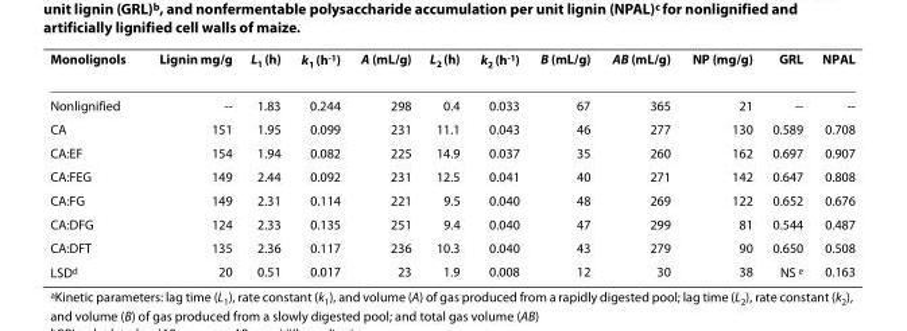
<table><thead><tr><td>Monolignols</td><td>Lignin mg/g</td><td>L<sub>1</sub> (h)</td><td>k<sub>1</sub> (h<sup>-1</sup>)</td><td>A (mL/g)</td><td>L<sub>2</sub> (h)</td><td>k<sub>2</sub> (h<sup>-1</sup>)</td><td>B (mL/g)</td><td>AB (mL/g)</td><td>NP (mg/g)</td><td>GRL</td><td>NPAL</td></tr></thead><tbody><tr><td>Nonlignified</td><td>--</td><td>1.83</td><td>0.244</td><td>298</td><td>0.4</td><td>0.033</td><td>67</td><td>365</td><td>21</td><td>--</td><td>--</td></tr><tr><td>CA</td><td>151</td><td>1.95</td><td>0.099</td><td>231</td><td>11.1</td><td>0.043</td><td>46</td><td>277</td><td>130</td><td>0.589</td><td>0.708</td></tr><tr><td>CA:EF</td><td>154</td><td>1.94</td><td>0.082</td><td>225</td><td>14.9</td><td>0.037</td><td>35</td><td>260</td><td>162</td><td>0.697</td><td>0.907</td></tr><tr><td>CA:FEG</td><td>149</td><td>2.44</td><td>0.092</td><td>231</td><td>12.5</td><td>0.041</td><td>40</td><td>271</td><td>142</td><td>0.647</td><td>0.808</td></tr><tr><td>CA:FG</td><td>149</td><td>2.31</td><td>0.114</td><td>221</td><td>9.5</td><td>0.040</td><td>48</td><td>269</td><td>122</td><td>0.652</td><td>0.676</td></tr><tr><td>CA:DFG</td><td>124</td><td>2.33</td><td>0.135</td><td>251</td><td>9.4</td><td>0.040</td><td>47</td><td>299</td><td>81</td><td>0.544</td><td>0.487</td></tr><tr><td>CA:DFT</td><td>135</td><td>2.36</td><td>0.117</td><td>236</td><td>10.3</td><td>0.040</td><td>43</td><td>279</td><td>90</td><td>0.650</td><td>0.508</td></tr><tr><td>LSD<sup>d</sup></td><td>20</td><td>0.51</td><td>0.017</td><td>23</td><td>1.9</td><td>0.008</td><td>12</td><td>30</td><td>38</td><td>NS <sup>e</sup></td><td>0.163</td></tr></tbody></table>